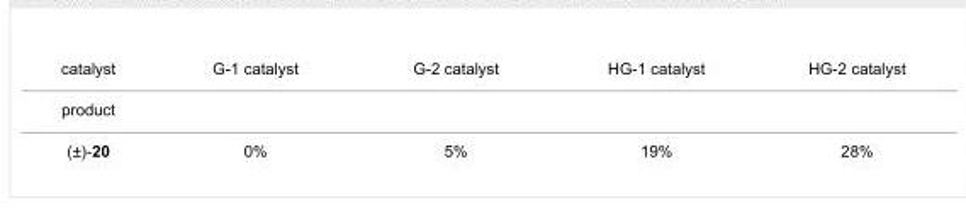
<table><tbody><tr><td>catalyst</td><td>G-1 catalyst</td><td>G-2 catalyst</td><td>HG-1 catalyst</td><td>HG-2 catalyst</td></tr><tr><td colspan="5">product</td></tr><tr><td>(±)-20</td><td>0%</td><td>5%</td><td>19%</td><td>28%</td></tr></tbody></table>